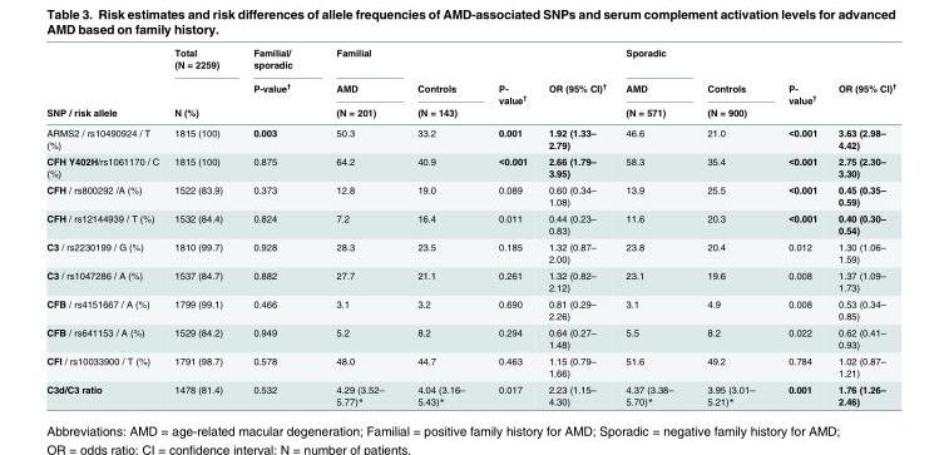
<table><thead><tr><td rowspan="3">SNP / risk allele</td><td rowspan="3">Total (N = 2259) N (%)</td><td rowspan="3">Familial/ sporadic P-value<sup>†</sup></td><td rowspan="3">Familial AMD (N = 201)</td><td rowspan="3">Controls (N = 143)</td><td rowspan="3">P- value<sup>†</sup></td><td rowspan="3">OR (95% CI)<sup>†</sup></td><td rowspan="3">Sporadic AMD (N = 571)</td><td rowspan="3">Controls (N = 900)</td><td rowspan="3">P- value<sup>†</sup></td><td rowspan="3">OR (95% CI)<sup>†</sup></td></tr><tr></tr><tr></tr></thead><tbody><tr><td>ARMS2 / rs10490924 / T (%)</td><td>1815 (100)</td><td>0.003</td><td>50.3</td><td>33.2</td><td>0.001</td><td>1.92 (1.33– 2.79)</td><td>46.6</td><td>21.0</td><td>&lt;0.001</td><td>3.63 (2.98– 4.42)</td></tr><tr><td>CFH Y402H/rs1061170 / C (%)</td><td>1815 (100)</td><td>0.875</td><td>64.2</td><td>40.9</td><td>&lt;0.001</td><td>2.66 (1.79– 3.95)</td><td>58.3</td><td>35.4</td><td>&lt;0.001</td><td>2.75 (2.30– 3.30)</td></tr><tr><td>CFH / rs800292 /A (%)</td><td>1522 (83.9)</td><td>0.373</td><td>12.8</td><td>19.0</td><td>0.089</td><td>0.60 (0.34– 1.08)</td><td>13.9</td><td>25.5</td><td>&lt;0.001</td><td>0.45 (0.35– 0.59)</td></tr><tr><td>CFH / rs12144939 / T (%)</td><td>1532 (84.4)</td><td>0.824</td><td>7.2</td><td>16.4</td><td>0.011</td><td>0.44 (0.23– 0.83)</td><td>11.6</td><td>20.3</td><td>&lt;0.001</td><td>0.40 (0.30– 0.54)</td></tr><tr><td>C3 / rs2230199 / G (%)</td><td>1810 (99.7)</td><td>0.928</td><td>28.3</td><td>23.5</td><td>0.185</td><td>1.32 (0.87– 2.00)</td><td>23.8</td><td>20.4</td><td>0.012</td><td>1.30 (1.06– 1.59)</td></tr><tr><td>C3 / rs1047286 / A (%)</td><td>1537 (84.7)</td><td>0.882</td><td>27.7</td><td>21.1</td><td>0.261</td><td>1.32 (0.82– 2.12)</td><td>23.1</td><td>19.6</td><td>0.008</td><td>1.37 (1.09– 1.73)</td></tr><tr><td>CFB / rs4151667 / A (%)</td><td>1799 (99.1)</td><td>0.466</td><td>3.1</td><td>3.2</td><td>0.690</td><td>0.81 (0.29– 2.26)</td><td>3.1</td><td>4.9</td><td>0.008</td><td>0.53 (0.34– 0.85)</td></tr><tr><td>CFB / rs641153 / A (%)</td><td>1529 (84.2)</td><td>0.949</td><td>5.2</td><td>8.2</td><td>0.294</td><td>0.64 (0.27– 1.48)</td><td>5.5</td><td>8.2</td><td>0.022</td><td>0.62 (0.41– 0.93)</td></tr><tr><td>CFI / rs10033900 / T (%)</td><td>1791 (98.7)</td><td>0.578</td><td>48.0</td><td>44.7</td><td>0.463</td><td>1.15 (0.79– 1.66)</td><td>51.6</td><td>49.2</td><td>0.784</td><td>1.02 (0.87– 1.21)</td></tr><tr><td>C3d/C3 ratio</td><td>1478 (81.4)</td><td>0.532</td><td>4.29 (3.52– 5.77)*</td><td>4.04 (3.16– 5.43)*</td><td>0.017</td><td>2.23 (1.15– 4.30)</td><td>4.37 (3.38– 5.70)*</td><td>3.95 (3.01– 5.21)*</td><td>0.001</td><td>1.76 (1.26– 2.46)</td></tr></tbody></table>